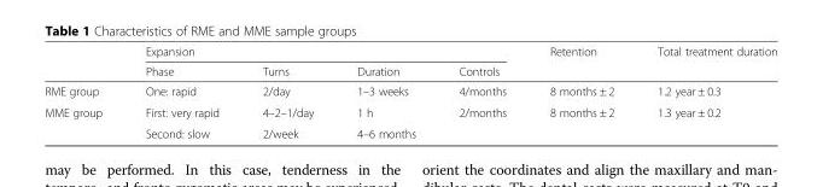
<table><thead><tr><td rowspan="2"></td><td colspan="4">Expansion</td><td rowspan="2">Retention</td><td rowspan="2">Total treatment duration</td></tr><tr><td>Phase</td><td>Turns</td><td>Duration</td><td>Controls</td></tr></thead><tbody><tr><td>RME group</td><td>One: rapid</td><td>2/day</td><td>1–3 weeks</td><td>4/months</td><td>8 months ± 2</td><td>1.2 year ± 0.3</td></tr><tr><td rowspan="2">MME group</td><td>First: very rapid</td><td>4–2–1/day</td><td>1 h</td><td rowspan="2">2/months</td><td rowspan="2">8 months ± 2</td><td rowspan="2">1.3 year ± 0.2</td></tr><tr><td>Second: slow</td><td>2/week</td><td>4–6 months</td></tr></tbody></table>